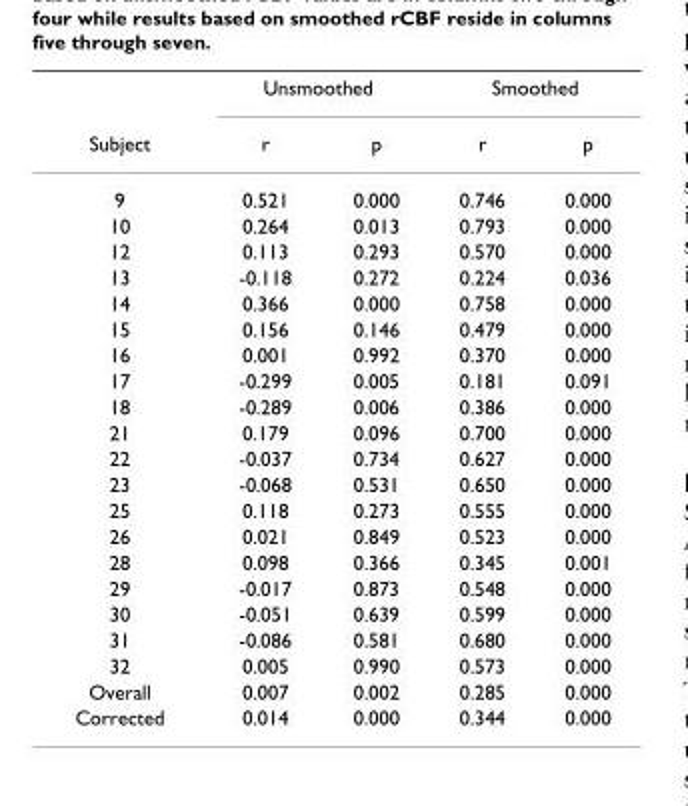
<table><thead><tr><td rowspan="2">Subject</td><td colspan="2">Unsmoothed</td><td colspan="2">Smoothed</td></tr><tr><td>r</td><td>p</td><td>r</td><td>p</td></tr></thead><tbody><tr><td>9</td><td>0.521</td><td>0.000</td><td>0.746</td><td>0.000</td></tr><tr><td>10</td><td>0.264</td><td>0.013</td><td>0.793</td><td>0.000</td></tr><tr><td>12</td><td>0.113</td><td>0.293</td><td>0.570</td><td>0.000</td></tr><tr><td>13</td><td>-0.118</td><td>0.272</td><td>0.224</td><td>0.036</td></tr><tr><td>14</td><td>0.366</td><td>0.000</td><td>0.758</td><td>0.000</td></tr><tr><td>15</td><td>0.156</td><td>0.146</td><td>0.479</td><td>0.000</td></tr><tr><td>16</td><td>0.001</td><td>0.992</td><td>0.370</td><td>0.000</td></tr><tr><td>17</td><td>-0.299</td><td>0.005</td><td>0.181</td><td>0.091</td></tr><tr><td>18</td><td>-0.289</td><td>0.006</td><td>0.386</td><td>0.000</td></tr><tr><td>21</td><td>0.179</td><td>0.096</td><td>0.700</td><td>0.000</td></tr><tr><td>22</td><td>-0.037</td><td>0.734</td><td>0.627</td><td>0.000</td></tr><tr><td>23</td><td>-0.068</td><td>0.531</td><td>0.650</td><td>0.000</td></tr><tr><td>25</td><td>0.118</td><td>0.273</td><td>0.555</td><td>0.000</td></tr><tr><td>26</td><td>0.021</td><td>0.849</td><td>0.523</td><td>0.000</td></tr><tr><td>28</td><td>0.098</td><td>0.366</td><td>0.345</td><td>0.001</td></tr><tr><td>29</td><td>-0.017</td><td>0.873</td><td>0.548</td><td>0.000</td></tr><tr><td>30</td><td>-0.051</td><td>0.639</td><td>0.599</td><td>0.000</td></tr><tr><td>31</td><td>-0.086</td><td>0.581</td><td>0.680</td><td>0.000</td></tr><tr><td>32</td><td>0.005</td><td>0.990</td><td>0.573</td><td>0.000</td></tr><tr><td>Overall</td><td>0.007</td><td>0.002</td><td>0.285</td><td>0.000</td></tr><tr><td>Corrected</td><td>0.014</td><td>0.000</td><td>0.344</td><td>0.000</td></tr></tbody></table>